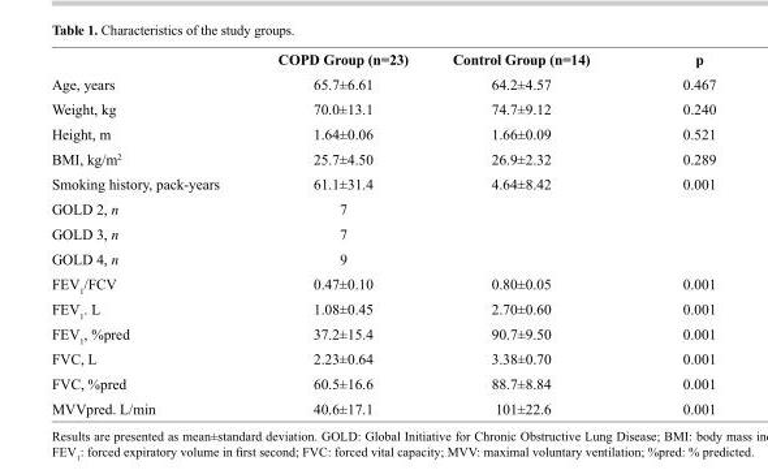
<table><thead><tr><td></td><td>COPD Group (n=23)</td><td>Control Group (n=14)</td><td>p</td></tr></thead><tbody><tr><td>Age, years</td><td>65.7±6.61</td><td>64.2±4.57</td><td>0.467</td></tr><tr><td>Weight, kg</td><td>70.0±13.1</td><td>74.7±9.12</td><td>0.240</td></tr><tr><td>Height, m</td><td>1.64±0.06</td><td>1.66±0.09</td><td>0.521</td></tr><tr><td>BMI, kg/m<sup>2</sup></td><td>25.7±4.50</td><td>26.9±2.32</td><td>0.289</td></tr><tr><td>Smoking history, pack-years</td><td>61.1±31.4</td><td>4.64±8.42</td><td>0.001</td></tr><tr><td>GOLD 2, n</td><td>7</td><td></td><td></td></tr><tr><td>GOLD 3, n</td><td>7</td><td></td><td></td></tr><tr><td>GOLD 4, n</td><td>9</td><td></td><td></td></tr><tr><td>FEV<sub>1</sub>/FCV</td><td>0.47±0.10</td><td>0.80±0.05</td><td>0.001</td></tr><tr><td>FEV<sub>1</sub>. L</td><td>1.08±0.45</td><td>2.70±0.60</td><td>0.001</td></tr><tr><td>FEV<sub>1</sub>, %pred</td><td>37.2±15.4</td><td>90.7±9.50</td><td>0.001</td></tr><tr><td>FVC, L</td><td>2.23±0.64</td><td>3.38±0.70</td><td>0.001</td></tr><tr><td>FVC, %pred</td><td>60.5±16.6</td><td>88.7±8.84</td><td>0.001</td></tr><tr><td>MVVpred. L/min</td><td>40.6±17.1</td><td>101±22.6</td><td>0.001</td></tr></tbody></table>